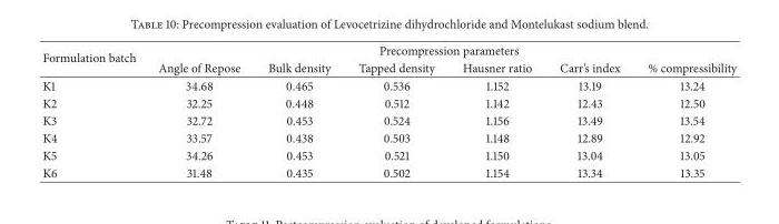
<table><thead><tr><td rowspan="2">Formulation batch</td><td colspan="6">Precompression parameters</td></tr><tr><td>Angle of Repose</td><td>Bulk density</td><td>Tapped density</td><td>Hausner ratio</td><td>Carr’s index</td><td>% compressibility</td></tr></thead><tbody><tr><td>K1</td><td>34.68</td><td>0.465</td><td>0.536</td><td>1.152</td><td>13.19</td><td>13.24</td></tr><tr><td>K2</td><td>32.25</td><td>0.448</td><td>0.512</td><td>1.142</td><td>12.43</td><td>12.50</td></tr><tr><td>K3</td><td>32.72</td><td>0.453</td><td>0.524</td><td>1.156</td><td>13.49</td><td>13.54</td></tr><tr><td>K4</td><td>33.57</td><td>0.438</td><td>0.503</td><td>1.148</td><td>12.89</td><td>12.92</td></tr><tr><td>K5</td><td>34.26</td><td>0.453</td><td>0.521</td><td>1.150</td><td>13.04</td><td>13.05</td></tr><tr><td>K6</td><td>31.48</td><td>0.435</td><td>0.502</td><td>1.154</td><td>13.34</td><td>13.35</td></tr></tbody></table>